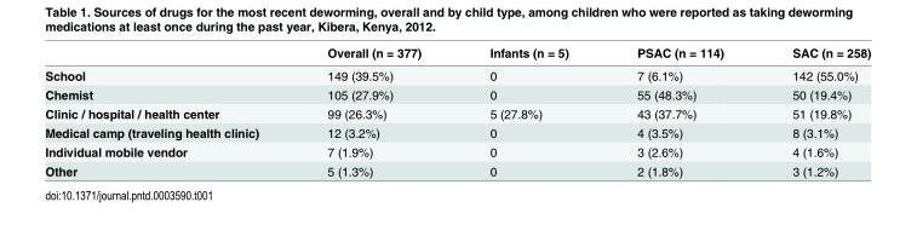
<table><thead><tr><td></td><td>Overall (n = 377)</td><td>Infants (n = 5)</td><td>PSAC (n = 114)</td><td>SAC (n = 258)</td></tr></thead><tbody><tr><td>School</td><td>149 (39.5%)</td><td>0</td><td>7 (6.1%)</td><td>142 (55.0%)</td></tr><tr><td>Chemist</td><td>105 (27.9%)</td><td>0</td><td>55 (48.3%)</td><td>50 (19.4%)</td></tr><tr><td>Clinic / hospital / health center</td><td>99 (26.3%)</td><td>5 (27.8%)</td><td>43 (37.7%)</td><td>51 (19.8%)</td></tr><tr><td>Medical camp (traveling health clinic)</td><td>12 (3.2%)</td><td>0</td><td>4 (3.5%)</td><td>8 (3.1%)</td></tr><tr><td>Individual mobile vendor</td><td>7 (1.9%)</td><td>0</td><td>3 (2.6%)</td><td>4 (1.6%)</td></tr><tr><td>Other</td><td>5 (1.3%)</td><td>0</td><td>2 (1.8%)</td><td>3 (1.2%)</td></tr></tbody></table>